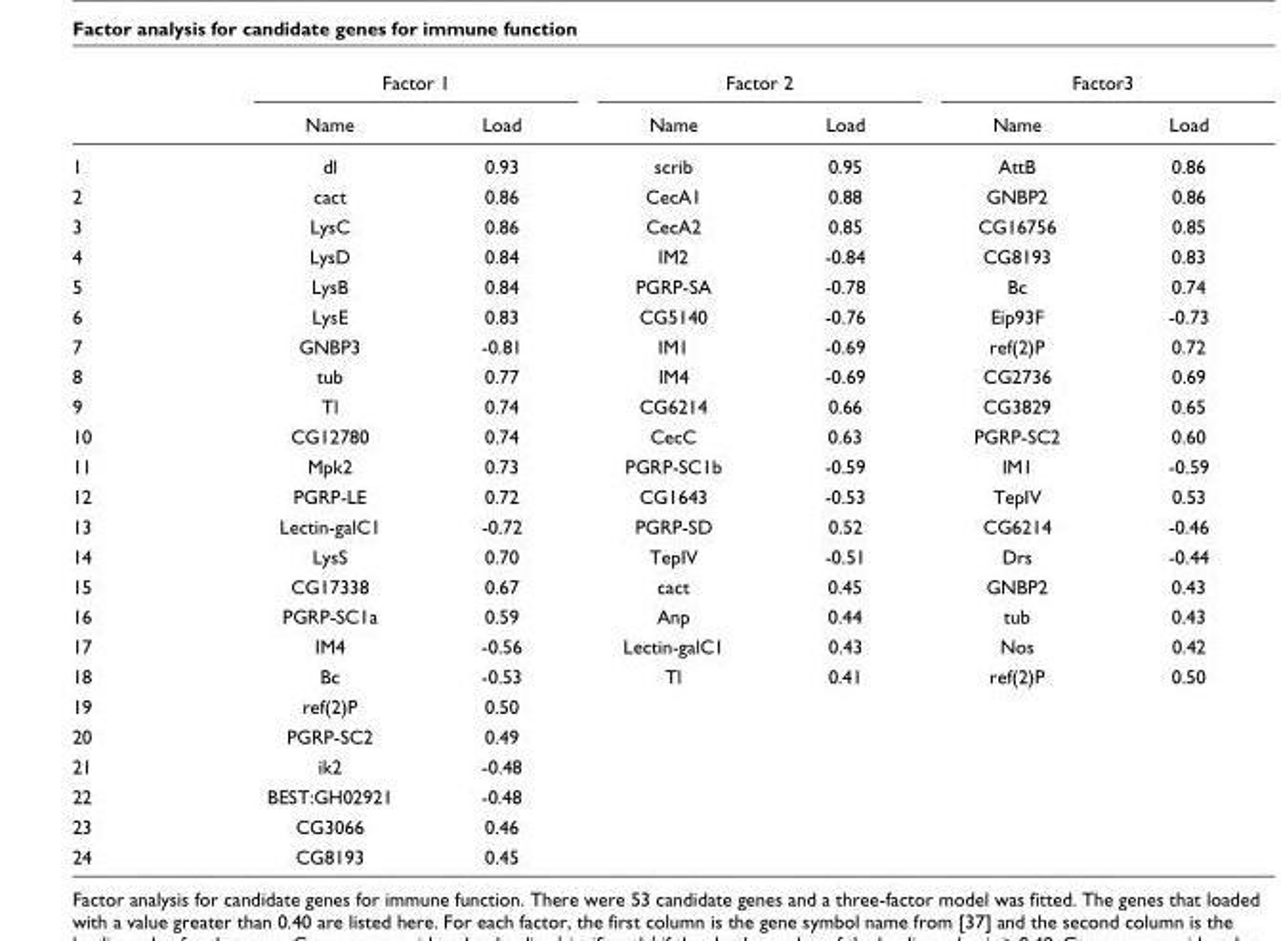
<table><thead><tr><td rowspan="2"></td><td colspan="2">Factor 1</td><td colspan="2">Factor 2</td><td colspan="2">Factor3</td></tr><tr><td>Name</td><td>Load</td><td>Name</td><td>Load</td><td>Name</td><td>Load</td></tr></thead><tbody><tr><td>1</td><td>dl</td><td>0.93</td><td>scrib</td><td>0.95</td><td>AttB</td><td>0.86</td></tr><tr><td>2</td><td>cact</td><td>0.86</td><td>CecA1</td><td>0.88</td><td>GNBP2</td><td>0.86</td></tr><tr><td>3</td><td>LysC</td><td>0.86</td><td>CecA2</td><td>0.85</td><td>CG16756</td><td>0.85</td></tr><tr><td>4</td><td>LysD</td><td>0.84</td><td>IM2</td><td>-0.84</td><td>CG8193</td><td>0.83</td></tr><tr><td>5</td><td>LysB</td><td>0.84</td><td>PGRP-SA</td><td>-0.78</td><td>Bc</td><td>0.74</td></tr><tr><td>6</td><td>LysE</td><td>0.83</td><td>CG5140</td><td>-0.76</td><td>Eip93F</td><td>-0.73</td></tr><tr><td>7</td><td>GNBP3</td><td>-0.81</td><td>IM1</td><td>-0.69</td><td>ref(2)P</td><td>0.72</td></tr><tr><td>8</td><td>tub</td><td>0.77</td><td>IM4</td><td>-0.69</td><td>CG2736</td><td>0.69</td></tr><tr><td>9</td><td>Tl</td><td>0.74</td><td>CG6214</td><td>0.66</td><td>CG3829</td><td>0.65</td></tr><tr><td>10</td><td>CG12780</td><td>0.74</td><td>CecC</td><td>0.63</td><td>PGRP-SC2</td><td>0.60</td></tr><tr><td>11</td><td>Mpk2</td><td>0.73</td><td>PGRP-SC1b</td><td>-0.59</td><td>IM1</td><td>-0.59</td></tr><tr><td>12</td><td>PGRP-LE</td><td>0.72</td><td>CG1643</td><td>-0.53</td><td>TepIV</td><td>0.53</td></tr><tr><td>13</td><td>Lectin-galC1</td><td>-0.72</td><td>PGRP-SD</td><td>0.52</td><td>CG6214</td><td>-0.46</td></tr><tr><td>14</td><td>LysS</td><td>0.70</td><td>TepIV</td><td>-0.51</td><td>Drs</td><td>-0.44</td></tr><tr><td>15</td><td>CG17338</td><td>0.67</td><td>cact</td><td>0.45</td><td>GNBP2</td><td>0.43</td></tr><tr><td>16</td><td>PGRP-SC1a</td><td>0.59</td><td>Anp</td><td>0.44</td><td>tub</td><td>0.43</td></tr><tr><td>17</td><td>IM4</td><td>-0.56</td><td>Lectin-galC1</td><td>0.43</td><td>Nos</td><td>0.42</td></tr><tr><td>18</td><td>Bc</td><td>-0.53</td><td>Tl</td><td>0.41</td><td>ref(2)P</td><td>0.50</td></tr><tr><td>19</td><td>ref(2)P</td><td>0.50</td><td></td><td></td><td></td><td></td></tr><tr><td>20</td><td>PGRP-SC2</td><td>0.49</td><td></td><td></td><td></td><td></td></tr><tr><td>21</td><td>ik2</td><td>-0.48</td><td></td><td></td><td></td><td></td></tr><tr><td>22</td><td>BEST:GH02921</td><td>-0.48</td><td></td><td></td><td></td><td></td></tr><tr><td>23</td><td>CG3066</td><td>0.46</td><td></td><td></td><td></td><td></td></tr><tr><td>24</td><td>CG8193</td><td>0.45</td><td></td><td></td><td></td><td></td></tr></tbody></table>